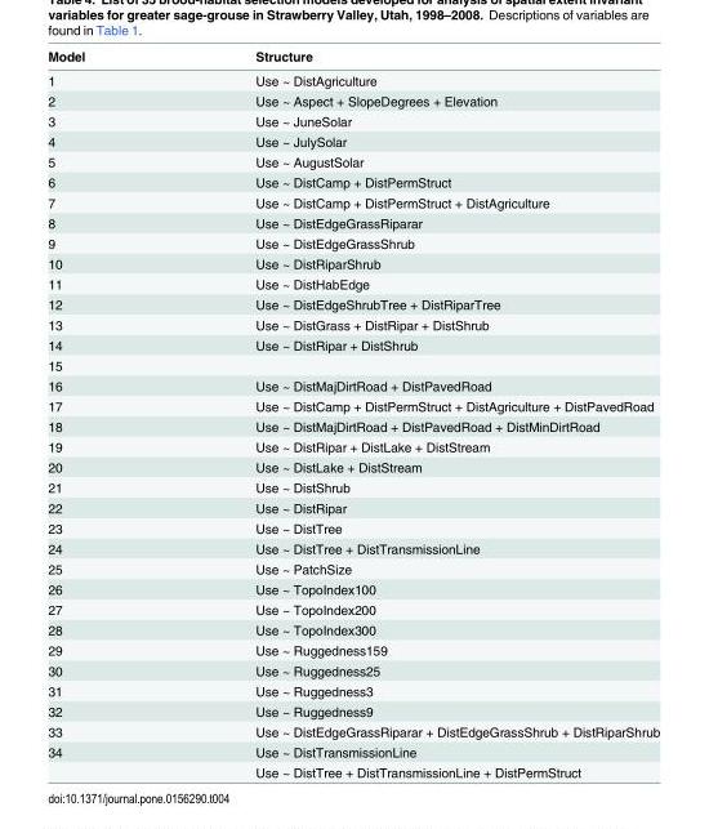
<table><thead><tr><td>Model</td><td>Structure</td></tr></thead><tbody><tr><td>1</td><td>Use ~ DistAgriculture</td></tr><tr><td>2</td><td>Use ~ Aspect + SlopeDegrees + Elevation</td></tr><tr><td>3</td><td>Use ~ JuneSolar</td></tr><tr><td>4</td><td>Use ~ JulySolar</td></tr><tr><td>5</td><td>Use ~ AugustSolar</td></tr><tr><td>6</td><td>Use ~ DistCamp + DistPermStruct</td></tr><tr><td>7</td><td>Use ~ DistCamp + DistPermStruct + DistAgriculture</td></tr><tr><td>8</td><td>Use ~ DistEdgeGrassRiparar</td></tr><tr><td>9</td><td>Use ~ DistEdgeGrassShrub</td></tr><tr><td>10</td><td>Use ~ DistRiparShrub</td></tr><tr><td>11</td><td>Use ~ DistHabEdge</td></tr><tr><td>12</td><td>Use ~ DistEdgeShrubTree + DistRiparTree</td></tr><tr><td>13</td><td>Use ~ DistGrass + DistRipar + DistShrub</td></tr><tr><td>14</td><td>Use ~ DistRipar + DistShrub</td></tr><tr><td colspan="2">15</td></tr><tr><td>16</td><td>Use ~ DistMajDirtRoad + DistPavedRoad</td></tr><tr><td>17</td><td>Use ~ DistCamp + DistPermStruct + DistAgriculture + DistPavedRoad</td></tr><tr><td>18</td><td>Use ~ DistMajDirtRoad + DistPavedRoad + DistMinDirtRoad</td></tr><tr><td>19</td><td>Use ~ DistRipar + DistLake + DistStream</td></tr><tr><td>20</td><td>Use ~ DistLake + DistStream</td></tr><tr><td>21</td><td>Use ~ DistShrub</td></tr><tr><td>22</td><td>Use ~ DistRipar</td></tr><tr><td>23</td><td>Use ~ DistTree</td></tr><tr><td>24</td><td>Use ~ DistTree + DistTransmissionLine</td></tr><tr><td>25</td><td>Use ~ PatchSize</td></tr><tr><td>26</td><td>Use ~ TopoIndex100</td></tr><tr><td>27</td><td>Use ~ TopoIndex200</td></tr><tr><td>28</td><td>Use ~ TopoIndex300</td></tr><tr><td>29</td><td>Use ~ Ruggedness159</td></tr><tr><td>30</td><td>Use ~ Ruggedness25</td></tr><tr><td>31</td><td>Use ~ Ruggedness3</td></tr><tr><td>32</td><td>Use ~ Ruggedness9</td></tr><tr><td>33</td><td>Use ~ DistEdgeGrassRiparar + DistEdgeGrassShrub + DistRiparShrub</td></tr><tr><td rowspan="2">34</td><td>Use ~ DistTransmissionLine</td></tr><tr><td>Use ~ DistTree + DistTransmissionLine + DistPermStruct</td></tr></tbody></table>